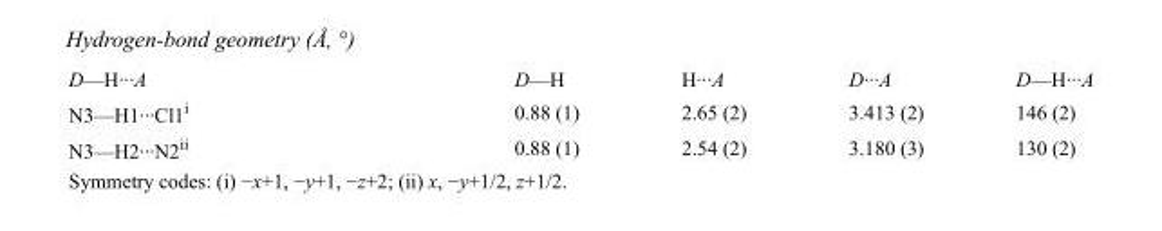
<table><tbody><tr><td>D—H···A</td><td>D—H</td><td>H···A</td><td>D···A</td><td>D—H···A</td></tr><tr><td>N3—H1···Cl1<sup>i</sup></td><td>0.88 (1)</td><td>2.65 (2)</td><td>3.413 (2)</td><td>146 (2)</td></tr><tr><td>N3—H2···N2<sup>ii</sup></td><td>0.88 (1)</td><td>2.54 (2)</td><td>3.180 (3)</td><td>130 (2)</td></tr></tbody></table>